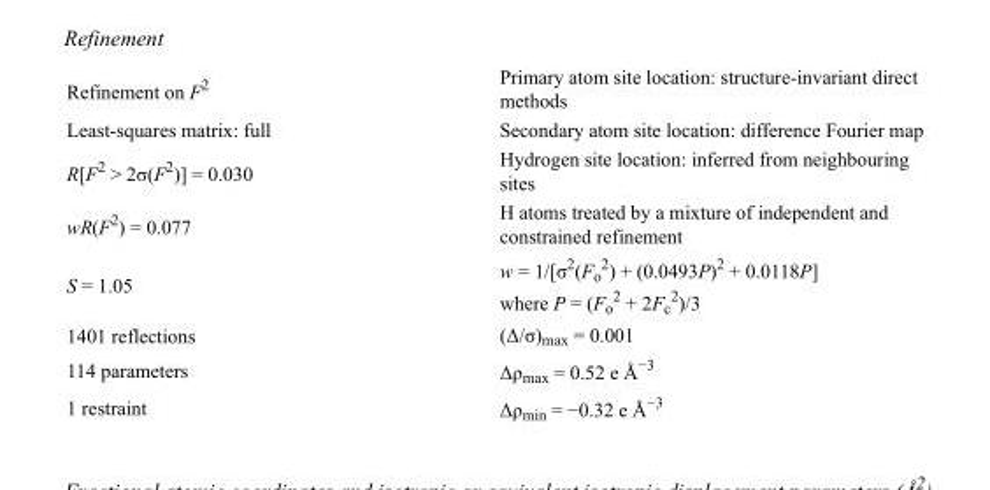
<table><tbody><tr><td>Refinement on F<sup>2</sup></td><td>Primary atom site location: structure-invariant direct methods</td></tr><tr><td>Least-squares matrix: full</td><td>Secondary atom site location: difference Fourier map</td></tr><tr><td>R[F<sup>2</sup> &gt; 2σ(F<sup>2</sup>)] = 0.030</td><td>Hydrogen site location: inferred from neighbouring sites</td></tr><tr><td>wR(F<sup>2</sup>) = 0.077</td><td>H atoms treated by a mixture of independent and constrained refinement</td></tr><tr><td>S = 1.05</td><td>w = 1/[σ<sup>2</sup>(F<sub>o</sub> <sup>2</sup>) + (0.0493P)<sup>2</sup> + 0.0118P] where P = (F<sub>o</sub> <sup>2</sup> + 2F<sub>c</sub> <sup>2</sup>)/3</td></tr><tr><td>1401 reflections</td><td>(Δ/σ)<sub>max</sub> = 0.001</td></tr><tr><td>114 parameters</td><td>Δρ<sub>max</sub> = 0.52 e Å<sup>−3</sup></td></tr><tr><td>1 restraint</td><td>Δρ<sub>min</sub> = −0.32 e Å<sup>−3</sup></td></tr></tbody></table>